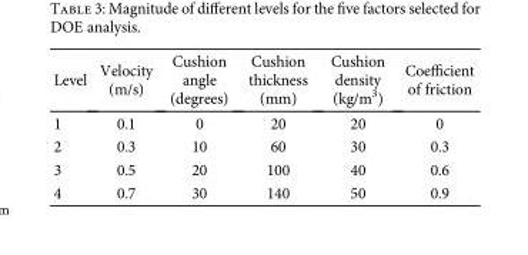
<table><thead><tr><td>Level</td><td>Velocity (m/s)</td><td>Cushion angle (degrees)</td><td>Cushion thickness (mm)</td><td>Cushion density (kg/m<sup>3</sup>)</td><td>Coefficient of friction</td></tr></thead><tbody><tr><td>1</td><td>0.1</td><td>0</td><td>20</td><td>20</td><td>0</td></tr><tr><td>2</td><td>0.3</td><td>10</td><td>60</td><td>30</td><td>0.3</td></tr><tr><td>3</td><td>0.5</td><td>20</td><td>100</td><td>40</td><td>0.6</td></tr><tr><td>4</td><td>0.7</td><td>30</td><td>140</td><td>50</td><td>0.9</td></tr></tbody></table>